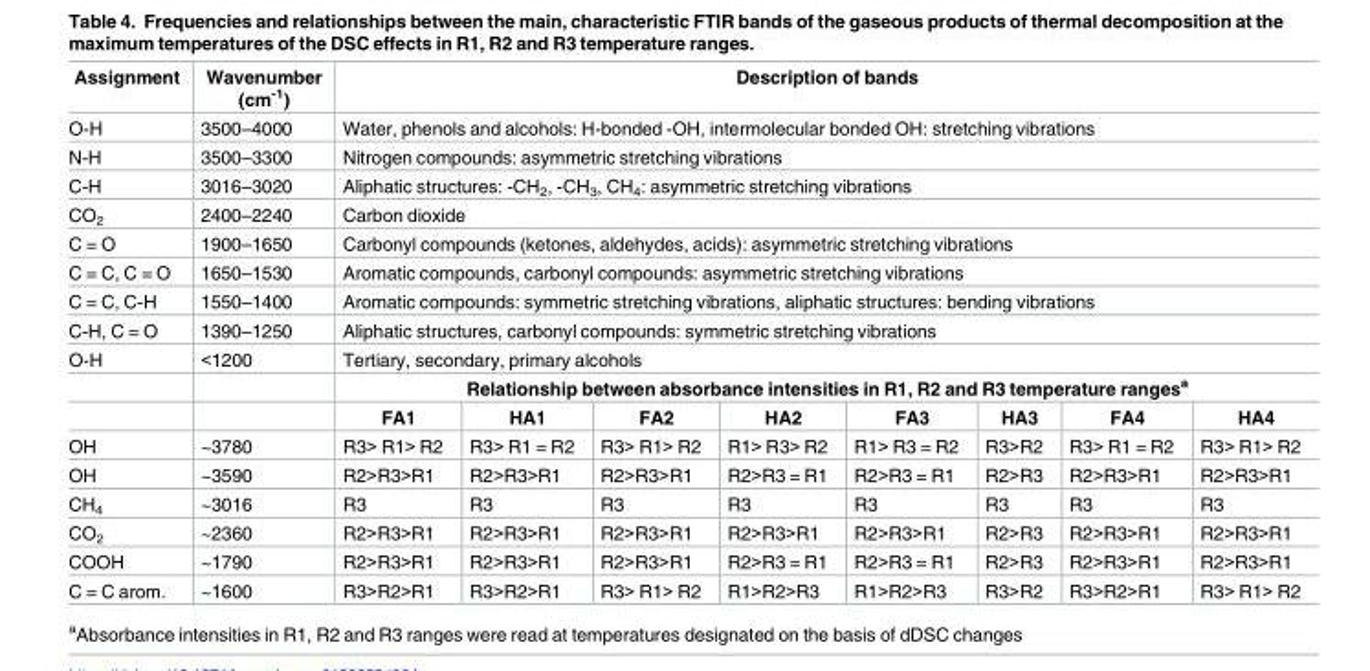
<table><thead><tr><td>Assignment</td><td>Wavenumber (cm<sup>-1</sup>)</td><td colspan="8">Description of bands</td></tr></thead><tbody><tr><td>O-H</td><td>3500–4000</td><td colspan="8">Water, phenols and alcohols: H-bonded -OH, intermolecular bonded OH: stretching vibrations</td></tr><tr><td>N-H</td><td>3500–3300</td><td colspan="8">Nitrogen compounds: asymmetric stretching vibrations</td></tr><tr><td>C-H</td><td>3016–3020</td><td colspan="8">Aliphatic structures: -CH<sub>2</sub>, -CH<sub>3</sub>, CH<sub>4</sub>: asymmetric stretching vibrations</td></tr><tr><td>CO<sub>2</sub></td><td>2400–2240</td><td colspan="8">Carbon dioxide</td></tr><tr><td>C = O</td><td>1900–1650</td><td colspan="8">Carbonyl compounds (ketones, aldehydes, acids): asymmetric stretching vibrations</td></tr><tr><td>C = C, C = O</td><td>1650–1530</td><td colspan="8">Aromatic compounds, carbonyl compounds: asymmetric stretching vibrations</td></tr><tr><td>C = C, C-H</td><td>1550–1400</td><td colspan="8">Aromatic compounds: symmetric stretching vibrations, aliphatic structures: bending vibrations</td></tr><tr><td>C-H, C = O</td><td>1390–1250</td><td colspan="8">Aliphatic structures, carbonyl compounds: symmetric stretching vibrations</td></tr><tr><td rowspan="3">O-H</td><td>&lt;1200</td><td colspan="8">Tertiary, secondary, primary alcohols</td></tr><tr><td></td><td colspan="8">Relationship between absorbance intensities in R1, R2 and R3 temperature ranges<sup>a</sup></td></tr><tr><td></td><td>FA1</td><td>HA1</td><td>FA2</td><td>HA2</td><td>FA3</td><td>HA3</td><td>FA4</td><td>HA4</td></tr><tr><td>OH</td><td>~3780</td><td>R3&gt; R1&gt; R2</td><td>R3&gt; R1 = R2</td><td>R3&gt; R1&gt; R2</td><td>R1&gt; R3&gt; R2</td><td>R1&gt; R3 = R2</td><td>R3&gt;R2</td><td>R3&gt; R1 = R2</td><td>R3&gt; R1&gt; R2</td></tr><tr><td>OH</td><td>~3590</td><td>R2&gt;R3&gt;R1</td><td>R2&gt;R3&gt;R1</td><td>R2&gt;R3&gt;R1</td><td>R2&gt;R3 = R1</td><td>R2&gt;R3 = R1</td><td>R2&gt;R3</td><td>R2&gt;R3&gt;R1</td><td>R2&gt;R3&gt;R1</td></tr><tr><td>CH<sub>4</sub></td><td>~3016</td><td>R3</td><td>R3</td><td>R3</td><td>R3</td><td>R3</td><td>R3</td><td>R3</td><td>R3</td></tr><tr><td>CO<sub>2</sub></td><td>~2360</td><td>R2&gt;R3&gt;R1</td><td>R2&gt;R3&gt;R1</td><td>R2&gt;R3&gt;R1</td><td>R2&gt;R3&gt;R1</td><td>R2&gt;R3&gt;R1</td><td>R2&gt;R3</td><td>R2&gt;R3&gt;R1</td><td>R2&gt;R3&gt;R1</td></tr><tr><td>COOH</td><td>~1790</td><td>R2&gt;R3&gt;R1</td><td>R2&gt;R3&gt;R1</td><td>R2&gt;R3&gt;R1</td><td>R2&gt;R3 = R1</td><td>R2&gt;R3 = R1</td><td>R2&gt;R3</td><td>R2&gt;R3&gt;R1</td><td>R2&gt;R3&gt;R1</td></tr><tr><td>C = C arom.</td><td>~1600</td><td>R3&gt;R2&gt;R1</td><td>R3&gt;R2&gt;R1</td><td>R3&gt; R1&gt; R2</td><td>R1&gt;R2&gt;R3</td><td>R1&gt;R2&gt;R3</td><td>R3&gt;R2</td><td>R3&gt;R2&gt;R1</td><td>R3&gt; R1&gt; R2</td></tr></tbody></table>